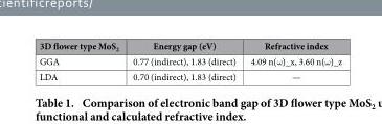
<table><thead><tr><td>3D flower type MoS<sub>2</sub></td><td>Energy gap (eV)</td><td>Refractive index</td></tr></thead><tbody><tr><td>GGA</td><td>0.77 (indirect), 1.83 (direct)</td><td>4.09 n(ω )_x, 3.60 n(ω )_z</td></tr><tr><td>LDA</td><td>0.70 (indirect), 1.83 (direct)</td><td>—</td></tr></tbody></table>